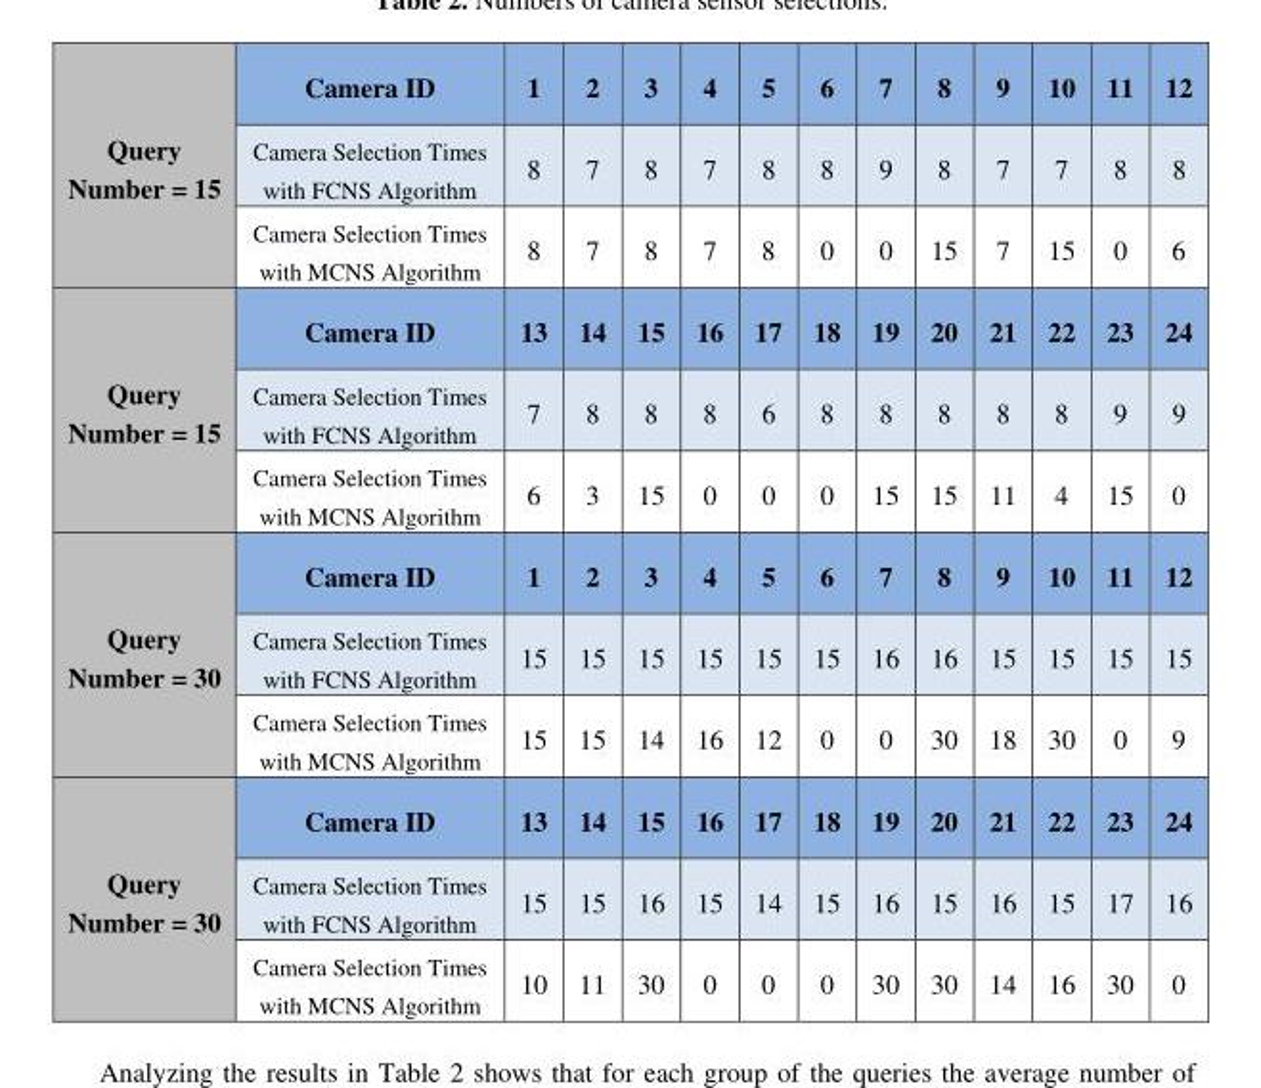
<table><tbody><tr><td rowspan="3">Query Number = 15</td><td>Camera ID</td><td>1</td><td>2</td><td>3</td><td>4</td><td>5</td><td>6</td><td>7</td><td>8</td><td>9</td><td>10</td><td>11</td><td>12</td></tr><tr><td>Camera Selection Times with FCNS Algorithm</td><td>8</td><td>7</td><td>8</td><td>7</td><td>8</td><td>8</td><td>9</td><td>8</td><td>7</td><td>7</td><td>8</td><td>8</td></tr><tr><td>Camera Selection Times with MCNS Algorithm</td><td>8</td><td>7</td><td>8</td><td>7</td><td>8</td><td>0</td><td>0</td><td>15</td><td>7</td><td>15</td><td>0</td><td>6</td></tr><tr><td rowspan="3">Query Number = 15</td><td>Camera ID</td><td>13</td><td>14</td><td>15</td><td>16</td><td>17</td><td>18</td><td>19</td><td>20</td><td>21</td><td>22</td><td>23</td><td>24</td></tr><tr><td>Camera Selection Times with FCNS Algorithm</td><td>7</td><td>8</td><td>8</td><td>8</td><td>6</td><td>8</td><td>8</td><td>8</td><td>8</td><td>8</td><td>9</td><td>9</td></tr><tr><td>Camera Selection Times with MCNS Algorithm</td><td>6</td><td>3</td><td>15</td><td>0</td><td>0</td><td>0</td><td>15</td><td>15</td><td>11</td><td>4</td><td>15</td><td>0</td></tr><tr><td rowspan="3">Query Number = 30</td><td>Camera ID</td><td>1</td><td>2</td><td>3</td><td>4</td><td>5</td><td>6</td><td>7</td><td>8</td><td>9</td><td>10</td><td>11</td><td>12</td></tr><tr><td>Camera Selection Times with FCNS Algorithm</td><td>15</td><td>15</td><td>15</td><td>15</td><td>15</td><td>15</td><td>16</td><td>16</td><td>15</td><td>15</td><td>15</td><td>15</td></tr><tr><td>Camera Selection Times with MCNS Algorithm</td><td>15</td><td>15</td><td>14</td><td>16</td><td>12</td><td>0</td><td>0</td><td>30</td><td>18</td><td>30</td><td>0</td><td>9</td></tr><tr><td rowspan="3">Query Number = 30</td><td>Camera ID</td><td>13</td><td>14</td><td>15</td><td>16</td><td>17</td><td>18</td><td>19</td><td>20</td><td>21</td><td>22</td><td>23</td><td>24</td></tr><tr><td>Camera Selection Times with FCNS Algorithm</td><td>15</td><td>15</td><td>16</td><td>15</td><td>14</td><td>15</td><td>16</td><td>15</td><td>16</td><td>15</td><td>17</td><td>16</td></tr><tr><td>Camera Selection Times with MCNS Algorithm</td><td>10</td><td>11</td><td>30</td><td>0</td><td>0</td><td>0</td><td>30</td><td>30</td><td>14</td><td>16</td><td>30</td><td>0</td></tr></tbody></table>